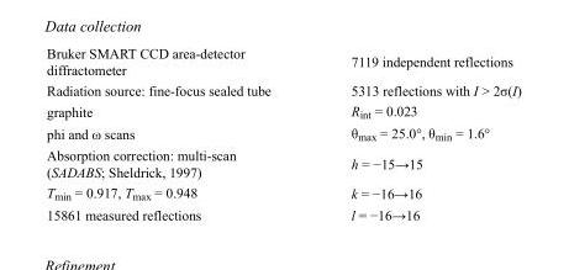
<table><tbody><tr><td>Bruker SMART CCD area-detector diffractometer</td><td>7119 independent reflections</td></tr><tr><td>Radiation source: fine-focus sealed tube</td><td>5313 reflections with I &gt; 2σ(I)</td></tr><tr><td>graphite</td><td>R<sub>int</sub> = 0.023</td></tr><tr><td>phi and ω scans</td><td>θ<sub>max</sub> = 25.0°, θ<sub>min</sub> = 1.6°</td></tr><tr><td>Absorption correction: multi-scan (SADABS; Sheldrick, 1997)</td><td>h = −15→15</td></tr><tr><td>T<sub>min</sub> = 0.917, T<sub>max</sub> = 0.948</td><td>k = −16→16</td></tr><tr><td>15861 measured reflections</td><td>l = −16→16</td></tr></tbody></table>